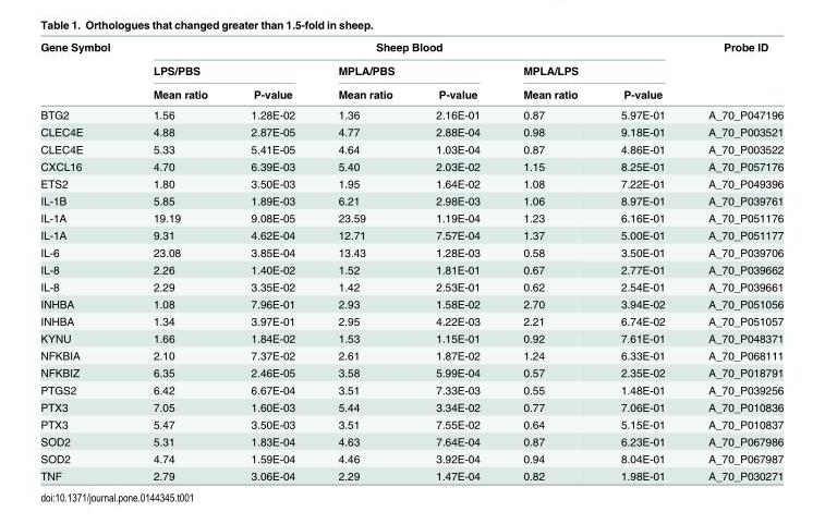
<table><thead><tr><td rowspan="3">Gene Symbol</td><td colspan="6">Sheep Blood</td><td rowspan="3">Probe ID</td></tr><tr><td colspan="2">LPS/PBS</td><td colspan="2">MPLA/PBS</td><td colspan="2">MPLA/LPS</td></tr><tr><td>Mean ratio</td><td>P-value</td><td>Mean ratio</td><td>P-value</td><td>Mean ratio</td><td>P-value</td></tr></thead><tbody><tr><td>BTG2</td><td>1.56</td><td>1.28E-02</td><td>1.36</td><td>2.16E-01</td><td>0.87</td><td>5.97E-01</td><td>A_70_P047196</td></tr><tr><td>CLEC4E</td><td>4.88</td><td>2.87E-05</td><td>4.77</td><td>2.88E-04</td><td>0.98</td><td>9.18E-01</td><td>A_70_P003521</td></tr><tr><td>CLEC4E</td><td>5.33</td><td>5.41E-05</td><td>4.64</td><td>1.03E-04</td><td>0.87</td><td>4.86E-01</td><td>A_70_P003522</td></tr><tr><td>CXCL16</td><td>4.70</td><td>6.39E-03</td><td>5.40</td><td>2.03E-02</td><td>1.15</td><td>8.25E-01</td><td>A_70_P057176</td></tr><tr><td>ETS2</td><td>1.80</td><td>3.50E-03</td><td>1.95</td><td>1.64E-02</td><td>1.08</td><td>7.22E-01</td><td>A_70_P049396</td></tr><tr><td>IL-1B</td><td>5.85</td><td>1.89E-03</td><td>6.21</td><td>2.98E-03</td><td>1.06</td><td>8.97E-01</td><td>A_70_P039761</td></tr><tr><td>IL-1A</td><td>19.19</td><td>9.08E-05</td><td>23.59</td><td>1.19E-04</td><td>1.23</td><td>6.16E-01</td><td>A_70_P051176</td></tr><tr><td>IL-1A</td><td>9.31</td><td>4.62E-04</td><td>12.71</td><td>7.57E-04</td><td>1.37</td><td>5.00E-01</td><td>A_70_P051177</td></tr><tr><td>IL-6</td><td>23.08</td><td>3.85E-04</td><td>13.43</td><td>1.28E-03</td><td>0.58</td><td>3.50E-01</td><td>A_70_P039706</td></tr><tr><td>IL-8</td><td>2.26</td><td>1.40E-02</td><td>1.52</td><td>1.81E-01</td><td>0.67</td><td>2.77E-01</td><td>A_70_P039662</td></tr><tr><td>IL-8</td><td>2.29</td><td>3.35E-02</td><td>1.42</td><td>2.53E-01</td><td>0.62</td><td>2.54E-01</td><td>A_70_P039661</td></tr><tr><td>INHBA</td><td>1.08</td><td>7.96E-01</td><td>2.93</td><td>1.58E-02</td><td>2.70</td><td>3.94E-02</td><td>A_70_P051056</td></tr><tr><td>INHBA</td><td>1.34</td><td>3.97E-01</td><td>2.95</td><td>4.22E-03</td><td>2.21</td><td>6.74E-02</td><td>A_70_P051057</td></tr><tr><td>KYNU</td><td>1.66</td><td>1.84E-02</td><td>1.53</td><td>1.15E-01</td><td>0.92</td><td>7.61E-01</td><td>A_70_P048371</td></tr><tr><td>NFKBIA</td><td>2.10</td><td>7.37E-02</td><td>2.61</td><td>1.87E-02</td><td>1.24</td><td>6.33E-01</td><td>A_70_P068111</td></tr><tr><td>NFKBIZ</td><td>6.35</td><td>2.46E-05</td><td>3.58</td><td>5.99E-04</td><td>0.57</td><td>2.35E-02</td><td>A_70_P018791</td></tr><tr><td>PTGS2</td><td>6.42</td><td>6.67E-04</td><td>3.51</td><td>7.33E-03</td><td>0.55</td><td>1.48E-01</td><td>A_70_P039256</td></tr><tr><td>PTX3</td><td>7.05</td><td>1.60E-03</td><td>5.44</td><td>3.34E-02</td><td>0.77</td><td>7.06E-01</td><td>A_70_P010836</td></tr><tr><td>PTX3</td><td>5.47</td><td>3.50E-03</td><td>3.51</td><td>7.55E-02</td><td>0.64</td><td>5.15E-01</td><td>A_70_P010837</td></tr><tr><td>SOD2</td><td>5.31</td><td>1.83E-04</td><td>4.63</td><td>7.64E-04</td><td>0.87</td><td>6.23E-01</td><td>A_70_P067986</td></tr><tr><td>SOD2</td><td>4.74</td><td>1.59E-04</td><td>4.46</td><td>3.92E-04</td><td>0.94</td><td>8.04E-01</td><td>A_70_P067987</td></tr><tr><td>TNF</td><td>2.79</td><td>3.06E-04</td><td>2.29</td><td>1.47E-04</td><td>0.82</td><td>1.98E-01</td><td>A_70_P030271</td></tr></tbody></table>